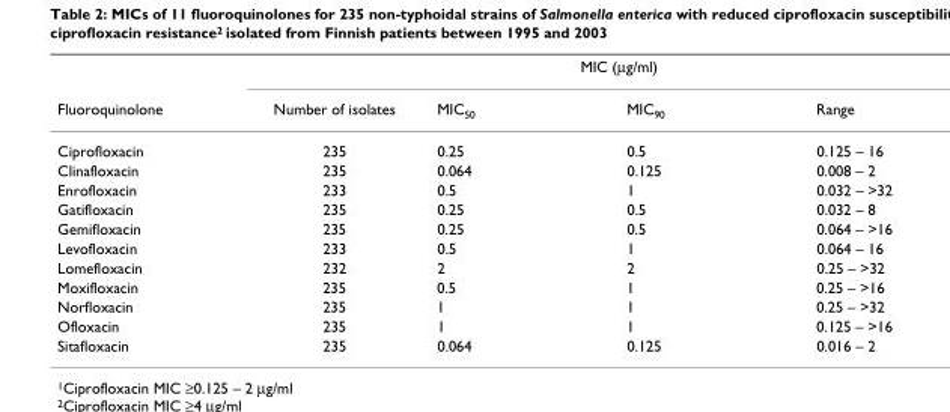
<table><thead><tr><td rowspan="2">Fluoroquinolone</td><td colspan="4">MIC (µg/ml)</td></tr><tr><td>Number of isolates</td><td>MIC<sub>50</sub></td><td>MIC<sub>90</sub></td><td>Range</td></tr></thead><tbody><tr><td>Ciprofloxacin</td><td>235</td><td>0.25</td><td>0.5</td><td>0.125 – 16</td></tr><tr><td>Clinafloxacin</td><td>235</td><td>0.064</td><td>0.125</td><td>0.008 – 2</td></tr><tr><td>Enrofloxacin</td><td>233</td><td>0.5</td><td>1</td><td>0.032 – &gt;32</td></tr><tr><td>Gatifloxacin</td><td>235</td><td>0.25</td><td>0.5</td><td>0.032 – 8</td></tr><tr><td>Gemifloxacin</td><td>235</td><td>0.25</td><td>0.5</td><td>0.064 – &gt;16</td></tr><tr><td>Levofloxacin</td><td>233</td><td>0.5</td><td>1</td><td>0.064 – 16</td></tr><tr><td>Lomefloxacin</td><td>232</td><td>2</td><td>2</td><td>0.25 – &gt;32</td></tr><tr><td>Moxifloxacin</td><td>235</td><td>0.5</td><td>1</td><td>0.25 – &gt;16</td></tr><tr><td>Norfloxacin</td><td>235</td><td>1</td><td>1</td><td>0.25 – &gt;32</td></tr><tr><td>Ofloxacin</td><td>235</td><td>1</td><td>1</td><td>0.125 – &gt;16</td></tr><tr><td>Sitafloxacin</td><td>235</td><td>0.064</td><td>0.125</td><td>0.016 – 2</td></tr></tbody></table>